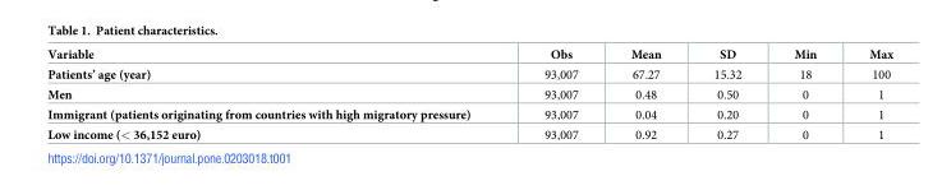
<table><thead><tr><td>Variable</td><td>Obs</td><td>Mean</td><td>SD</td><td>Min</td><td>Max</td></tr></thead><tbody><tr><td>Patients’ age (year)</td><td>93,007</td><td>67.27</td><td>15.32</td><td>18</td><td>100</td></tr><tr><td>Men</td><td>93,007</td><td>0.48</td><td>0.50</td><td>0</td><td>1</td></tr><tr><td>Immigrant (patients originating from countries with high migratory pressure)</td><td>93,007</td><td>0.04</td><td>0.20</td><td>0</td><td>1</td></tr><tr><td>Low income (&lt; 36,152 euro)</td><td>93,007</td><td>0.92</td><td>0.27</td><td>0</td><td>1</td></tr></tbody></table>